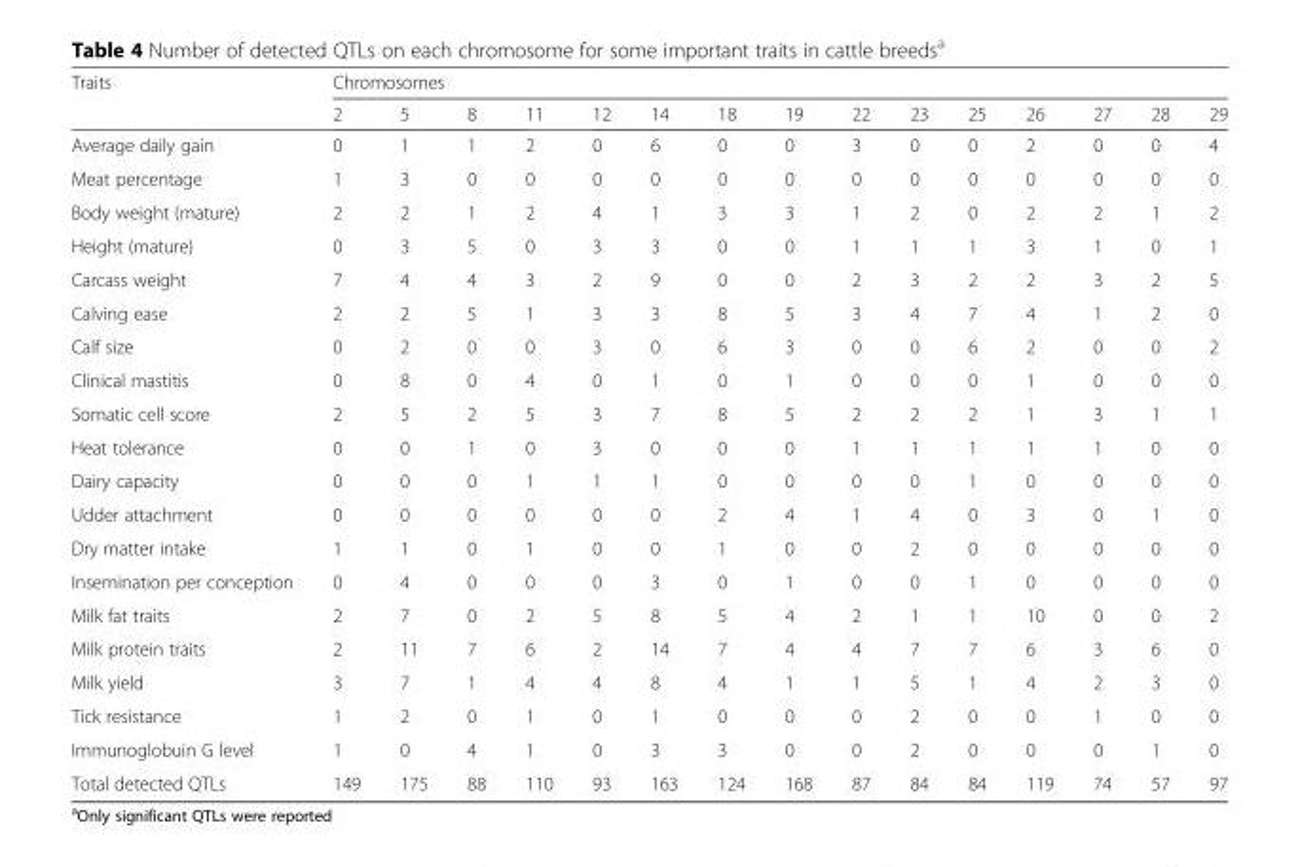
<table><thead><tr><td rowspan="2">Traits</td><td colspan="15">Chromosomes</td></tr><tr><td>2</td><td>5</td><td>8</td><td>11</td><td>12</td><td>14</td><td>18</td><td>19</td><td>22</td><td>23</td><td>25</td><td>26</td><td>27</td><td>28</td><td>29</td></tr></thead><tbody><tr><td>Average daily gain</td><td>0</td><td>1</td><td>1</td><td>2</td><td>0</td><td>6</td><td>0</td><td>0</td><td>3</td><td>0</td><td>0</td><td>2</td><td>0</td><td>0</td><td>4</td></tr><tr><td>Meat percentage</td><td>1</td><td>3</td><td>0</td><td>0</td><td>0</td><td>0</td><td>0</td><td>0</td><td>0</td><td>0</td><td>0</td><td>0</td><td>0</td><td>0</td><td>0</td></tr><tr><td>Body weight (mature)</td><td>2</td><td>2</td><td>1</td><td>2</td><td>4</td><td>1</td><td>3</td><td>3</td><td>1</td><td>2</td><td>0</td><td>2</td><td>2</td><td>1</td><td>2</td></tr><tr><td>Height (mature)</td><td>0</td><td>3</td><td>5</td><td>0</td><td>3</td><td>3</td><td>0</td><td>0</td><td>1</td><td>1</td><td>1</td><td>3</td><td>1</td><td>0</td><td>1</td></tr><tr><td>Carcass weight</td><td>7</td><td>4</td><td>4</td><td>3</td><td>2</td><td>9</td><td>0</td><td>0</td><td>2</td><td>3</td><td>2</td><td>2</td><td>3</td><td>2</td><td>5</td></tr><tr><td>Calving ease</td><td>2</td><td>2</td><td>5</td><td>1</td><td>3</td><td>3</td><td>8</td><td>5</td><td>3</td><td>4</td><td>7</td><td>4</td><td>1</td><td>2</td><td>0</td></tr><tr><td>Calf size</td><td>0</td><td>2</td><td>0</td><td>0</td><td>3</td><td>0</td><td>6</td><td>3</td><td>0</td><td>0</td><td>6</td><td>2</td><td>0</td><td>0</td><td>2</td></tr><tr><td>Clinical mastitis</td><td>0</td><td>8</td><td>0</td><td>4</td><td>0</td><td>1</td><td>0</td><td>1</td><td>0</td><td>0</td><td>0</td><td>1</td><td>0</td><td>0</td><td>0</td></tr><tr><td>Somatic cell score</td><td>2</td><td>5</td><td>2</td><td>5</td><td>3</td><td>7</td><td>8</td><td>5</td><td>2</td><td>2</td><td>2</td><td>1</td><td>3</td><td>1</td><td>1</td></tr><tr><td>Heat tolerance</td><td>0</td><td>0</td><td>1</td><td>0</td><td>3</td><td>0</td><td>0</td><td>0</td><td>1</td><td>1</td><td>1</td><td>1</td><td>1</td><td>0</td><td>0</td></tr><tr><td>Dairy capacity</td><td>0</td><td>0</td><td>0</td><td>1</td><td>1</td><td>1</td><td>0</td><td>0</td><td>0</td><td>0</td><td>1</td><td>0</td><td>0</td><td>0</td><td>0</td></tr><tr><td>Udder attachment</td><td>0</td><td>0</td><td>0</td><td>0</td><td>0</td><td>0</td><td>2</td><td>4</td><td>1</td><td>4</td><td>0</td><td>3</td><td>0</td><td>1</td><td>0</td></tr><tr><td>Dry matter intake</td><td>1</td><td>1</td><td>0</td><td>1</td><td>0</td><td>0</td><td>1</td><td>0</td><td>0</td><td>2</td><td>0</td><td>0</td><td>0</td><td>0</td><td>0</td></tr><tr><td>Insemination per conception</td><td>0</td><td>4</td><td>0</td><td>0</td><td>0</td><td>3</td><td>0</td><td>1</td><td>0</td><td>0</td><td>1</td><td>0</td><td>0</td><td>0</td><td>0</td></tr><tr><td>Milk fat traits</td><td>2</td><td>7</td><td>0</td><td>2</td><td>5</td><td>8</td><td>5</td><td>4</td><td>2</td><td>1</td><td>1</td><td>10</td><td>0</td><td>0</td><td>2</td></tr><tr><td>Milk protein traits</td><td>2</td><td>11</td><td>7</td><td>6</td><td>2</td><td>14</td><td>7</td><td>4</td><td>4</td><td>7</td><td>7</td><td>6</td><td>3</td><td>6</td><td>0</td></tr><tr><td>Milk yield</td><td>3</td><td>7</td><td>1</td><td>4</td><td>4</td><td>8</td><td>4</td><td>1</td><td>1</td><td>5</td><td>1</td><td>4</td><td>2</td><td>3</td><td>0</td></tr><tr><td>Tick resistance</td><td>1</td><td>2</td><td>0</td><td>1</td><td>0</td><td>1</td><td>0</td><td>0</td><td>0</td><td>2</td><td>0</td><td>0</td><td>1</td><td>0</td><td>0</td></tr><tr><td>Immunoglobuin G level</td><td>1</td><td>0</td><td>4</td><td>1</td><td>0</td><td>3</td><td>3</td><td>0</td><td>0</td><td>2</td><td>0</td><td>0</td><td>0</td><td>1</td><td>0</td></tr><tr><td>Total detected QTLs</td><td>149</td><td>175</td><td>88</td><td>110</td><td>93</td><td>163</td><td>124</td><td>168</td><td>87</td><td>84</td><td>84</td><td>119</td><td>74</td><td>57</td><td>97</td></tr></tbody></table>